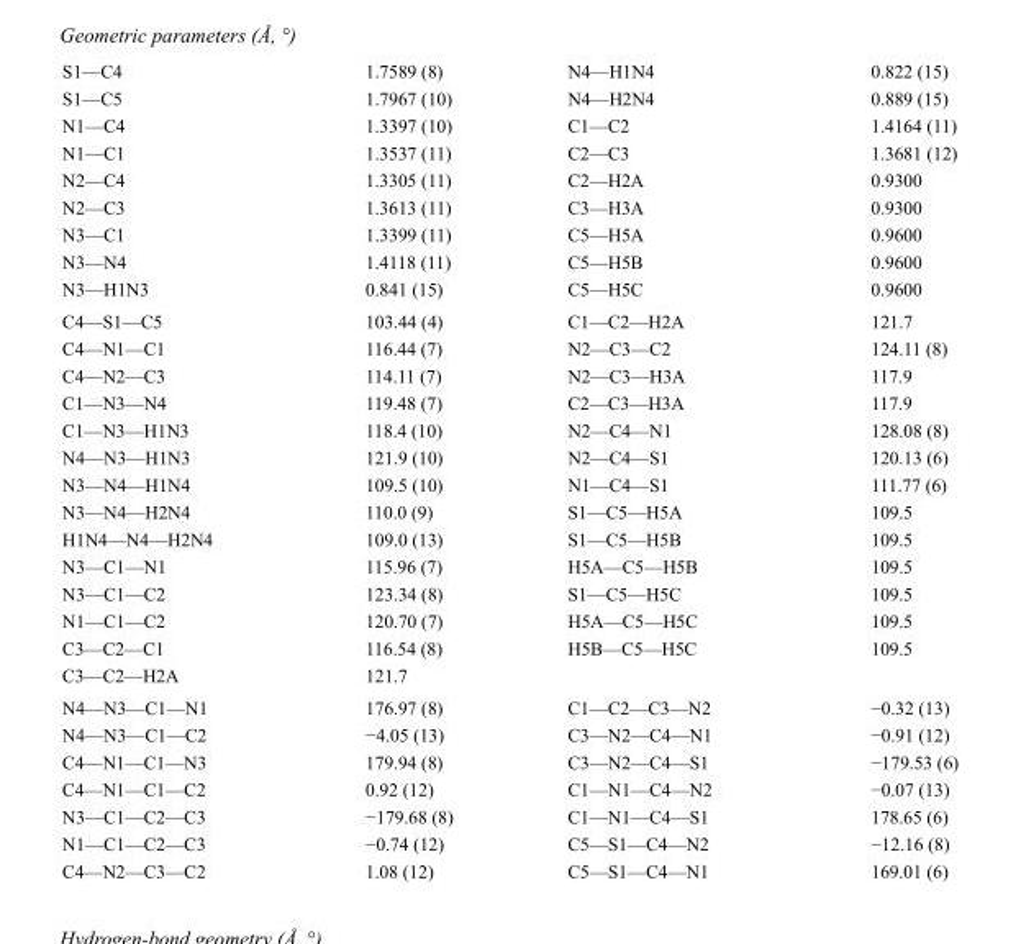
<table><tbody><tr><td>S1—C4</td><td>1.7589 (8)</td><td>N4—H1N4</td><td>0.822 (15)</td></tr><tr><td>S1—C5</td><td>1.7967 (10)</td><td>N4—H2N4</td><td>0.889 (15)</td></tr><tr><td>N1—C4</td><td>1.3397 (10)</td><td>C1—C2</td><td>1.4164 (11)</td></tr><tr><td>N1—C1</td><td>1.3537 (11)</td><td>C2—C3</td><td>1.3681 (12)</td></tr><tr><td>N2—C4</td><td>1.3305 (11)</td><td>C2—H2A</td><td>0.9300</td></tr><tr><td>N2—C3</td><td>1.3613 (11)</td><td>C3—H3A</td><td>0.9300</td></tr><tr><td>N3—C1</td><td>1.3399 (11)</td><td>C5—H5A</td><td>0.9600</td></tr><tr><td>N3—N4</td><td>1.4118 (11)</td><td>C5—H5B</td><td>0.9600</td></tr><tr><td>N3—H1N3</td><td>0.841 (15)</td><td>C5—H5C</td><td>0.9600</td></tr><tr><td>C4—S1—C5</td><td>103.44 (4)</td><td>C1—C2—H2A</td><td>121.7</td></tr><tr><td>C4—N1—C1</td><td>116.44 (7)</td><td>N2—C3—C2</td><td>124.11 (8)</td></tr><tr><td>C4—N2—C3</td><td>114.11 (7)</td><td>N2—C3—H3A</td><td>117.9</td></tr><tr><td>C1—N3—N4</td><td>119.48 (7)</td><td>C2—C3—H3A</td><td>117.9</td></tr><tr><td>C1—N3—H1N3</td><td>118.4 (10)</td><td>N2—C4—N1</td><td>128.08 (8)</td></tr><tr><td>N4—N3—H1N3</td><td>121.9 (10)</td><td>N2—C4—S1</td><td>120.13 (6)</td></tr><tr><td>N3—N4—H1N4</td><td>109.5 (10)</td><td>N1—C4—S1</td><td>111.77 (6)</td></tr><tr><td>N3—N4—H2N4</td><td>110.0 (9)</td><td>S1—C5—H5A</td><td>109.5</td></tr><tr><td>H1N4—N4—H2N4</td><td>109.0 (13)</td><td>S1—C5—H5B</td><td>109.5</td></tr><tr><td>N3—C1—N1</td><td>115.96 (7)</td><td>H5A—C5—H5B</td><td>109.5</td></tr><tr><td>N3—C1—C2</td><td>123.34 (8)</td><td>S1—C5—H5C</td><td>109.5</td></tr><tr><td>N1—C1—C2</td><td>120.70 (7)</td><td>H5A—C5—H5C</td><td>109.5</td></tr><tr><td>C3—C2—C1</td><td>116.54 (8)</td><td>H5B—C5—H5C</td><td>109.5</td></tr><tr><td>C3—C2—H2A</td><td>121.7</td><td></td><td></td></tr><tr><td>N4—N3—C1—N1</td><td>176.97 (8)</td><td>C1—C2—C3—N2</td><td>−0.32 (13)</td></tr><tr><td>N4—N3—C1—C2</td><td>−4.05 (13)</td><td>C3—N2—C4—N1</td><td>−0.91 (12)</td></tr><tr><td>C4—N1—C1—N3</td><td>179.94 (8)</td><td>C3—N2—C4—S1</td><td>−179.53 (6)</td></tr><tr><td>C4—N1—C1—C2</td><td>0.92 (12)</td><td>C1—N1—C4—N2</td><td>−0.07 (13)</td></tr><tr><td>N3—C1—C2—C3</td><td>−179.68 (8)</td><td>C1—N1—C4—S1</td><td>178.65 (6)</td></tr><tr><td>N1—C1—C2—C3</td><td>−0.74 (12)</td><td>C5—S1—C4—N2</td><td>−12.16 (8)</td></tr><tr><td>C4—N2—C3—C2</td><td>1.08 (12)</td><td>C5—S1—C4—N1</td><td>169.01 (6)</td></tr></tbody></table>